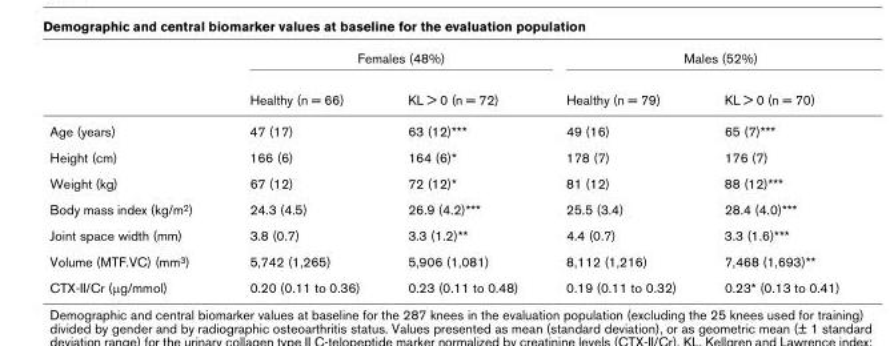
<table><thead><tr><td rowspan="2"></td><td colspan="2">Females (48%)</td><td colspan="2">Males (52%)</td></tr><tr><td>Healthy (n = 66)</td><td>KL &gt; 0 (n = 72)</td><td>Healthy (n = 79)</td><td>KL &gt; 0 (n = 70)</td></tr></thead><tbody><tr><td>Age (years)</td><td>47 (17)</td><td>63 (12)***</td><td>49 (16)</td><td>65 (7)***</td></tr><tr><td>Height (cm)</td><td>166 (6)</td><td>164 (6)*</td><td>178 (7)</td><td>176 (7)</td></tr><tr><td>Weight (kg)</td><td>67 (12)</td><td>72 (12)*</td><td>81 (12)</td><td>88 (12)***</td></tr><tr><td>Body mass index (kg/m<sup>2</sup>)</td><td>24.3 (4.5)</td><td>26.9 (4.2)***</td><td>25.5 (3.4)</td><td>28.4 (4.0)***</td></tr><tr><td>Joint space width (mm)</td><td>3.8 (0.7)</td><td>3.3 (1.2)**</td><td>4.4 (0.7)</td><td>3.3 (1.6)***</td></tr><tr><td>Volume (MTF.VC) (mm<sup>3</sup>)</td><td>5,742 (1,265)</td><td>5,906 (1,081)</td><td>8,112 (1,216)</td><td>7,468 (1,693)**</td></tr><tr><td>CTX-II/Cr (μg/mmol)</td><td>0.20 (0.11 to 0.36)</td><td>0.23 (0.11 to 0.48)</td><td>0.19 (0.11 to 0.32)</td><td>0.23* (0.13 to 0.41)</td></tr></tbody></table>